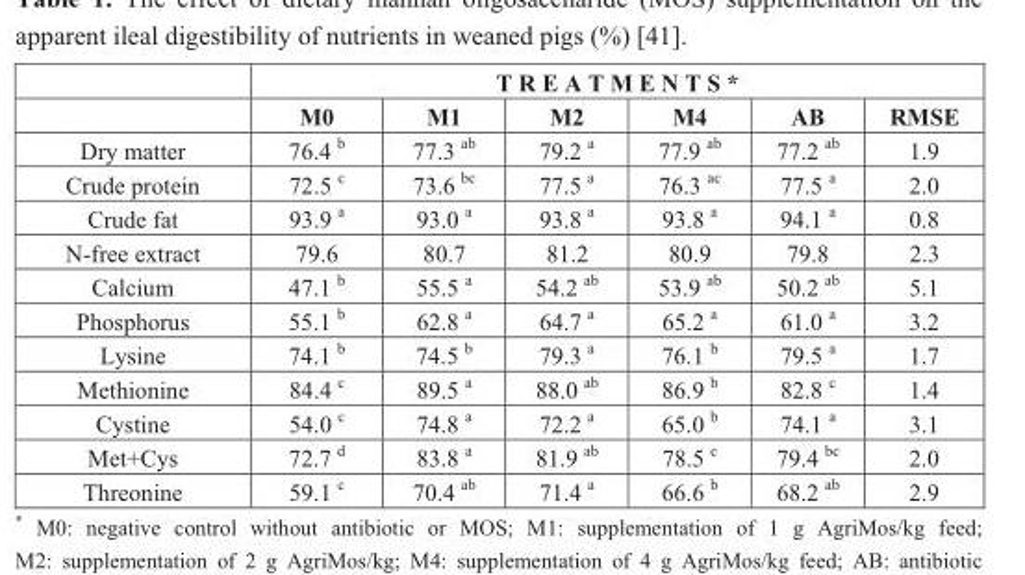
<table><thead><tr><td rowspan="2"></td><td colspan="6">T R E A T M E N T S *</td></tr><tr><td>M0</td><td>M1</td><td>M2</td><td>M4</td><td>AB</td><td>RMSE</td></tr></thead><tbody><tr><td>Dry matter</td><td>76.4 <sup>b</sup></td><td>77.3 <sup>ab</sup></td><td>79.2 <sup>a</sup></td><td>77.9 <sup>ab</sup></td><td>77.2 <sup>ab</sup></td><td>1.9</td></tr><tr><td>Crude protein</td><td>72.5 <sup>c</sup></td><td>73.6 <sup>bc</sup></td><td>77.5 <sup>a</sup></td><td>76.3 <sup>ac</sup></td><td>77.5 <sup>a</sup></td><td>2.0</td></tr><tr><td>Crude fat</td><td>93.9 <sup>a</sup></td><td>93.0 <sup>a</sup></td><td>93.8 <sup>a</sup></td><td>93.8 <sup>a</sup></td><td>94.1 <sup>a</sup></td><td>0.8</td></tr><tr><td>N-free extract</td><td>79.6</td><td>80.7</td><td>81.2</td><td>80.9</td><td>79.8</td><td>2.3</td></tr><tr><td>Calcium</td><td>47.1 <sup>b</sup></td><td>55.5 <sup>a</sup></td><td>54.2 <sup>ab</sup></td><td>53.9 <sup>ab</sup></td><td>50.2 <sup>ab</sup></td><td>5.1</td></tr><tr><td>Phosphorus</td><td>55.1 <sup>b</sup></td><td>62.8 <sup>a</sup></td><td>64.7 <sup>a</sup></td><td>65.2 <sup>a</sup></td><td>61.0 <sup>a</sup></td><td>3.2</td></tr><tr><td>Lysine</td><td>74.1 <sup>b</sup></td><td>74.5 <sup>b</sup></td><td>79.3 <sup>a</sup></td><td>76.1 <sup>b</sup></td><td>79.5 <sup>a</sup></td><td>1.7</td></tr><tr><td>Methionine</td><td>84.4 <sup>c</sup></td><td>89.5 <sup>a</sup></td><td>88.0 <sup>ab</sup></td><td>86.9 <sup>b</sup></td><td>82.8 <sup>c</sup></td><td>1.4</td></tr><tr><td>Cystine</td><td>54.0 <sup>c</sup></td><td>74.8 <sup>a</sup></td><td>72.2 <sup>a</sup></td><td>65.0 <sup>b</sup></td><td>74.1 <sup>a</sup></td><td>3.1</td></tr><tr><td>Met+Cys</td><td>72.7 <sup>d</sup></td><td>83.8 <sup>a</sup></td><td>81.9 <sup>ab</sup></td><td>78.5 <sup>c</sup></td><td>79.4 <sup>bc</sup></td><td>2.0</td></tr><tr><td>Threonine</td><td>59.1 <sup>c</sup></td><td>70.4 <sup>ab</sup></td><td>71.4 <sup>a</sup></td><td>66.6 <sup>b</sup></td><td>68.2 <sup>ab</sup></td><td>2.9</td></tr></tbody></table>